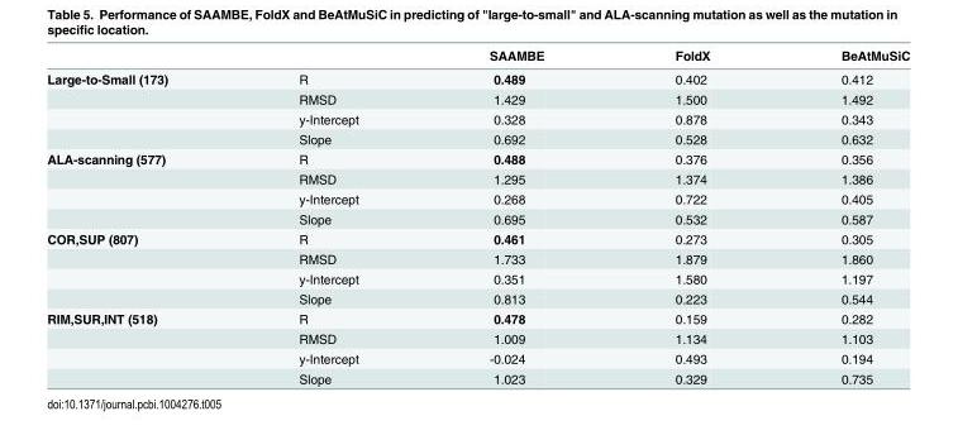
<table><thead><tr><td></td><td></td><td>SAAMBE</td><td>FoldX</td><td>BeAtMuSiC</td></tr></thead><tbody><tr><td rowspan="4">Large-to-Small (173)</td><td>R</td><td>0.489</td><td>0.402</td><td>0.412</td></tr><tr><td>RMSD</td><td>1.429</td><td>1.500</td><td>1.492</td></tr><tr><td>y-Intercept</td><td>0.328</td><td>0.878</td><td>0.343</td></tr><tr><td>Slope</td><td>0.692</td><td>0.528</td><td>0.632</td></tr><tr><td rowspan="4">ALA-scanning (577)</td><td>R</td><td>0.488</td><td>0.376</td><td>0.356</td></tr><tr><td>RMSD</td><td>1.295</td><td>1.374</td><td>1.386</td></tr><tr><td>y-Intercept</td><td>0.268</td><td>0.722</td><td>0.405</td></tr><tr><td>Slope</td><td>0.695</td><td>0.532</td><td>0.587</td></tr><tr><td rowspan="4">COR,SUP (807)</td><td>R</td><td>0.461</td><td>0.273</td><td>0.305</td></tr><tr><td>RMSD</td><td>1.733</td><td>1.879</td><td>1.860</td></tr><tr><td>y-Intercept</td><td>0.351</td><td>1.580</td><td>1.197</td></tr><tr><td>Slope</td><td>0.813</td><td>0.223</td><td>0.544</td></tr><tr><td rowspan="4">RIM,SUR,INT (518)</td><td>R</td><td>0.478</td><td>0.159</td><td>0.282</td></tr><tr><td>RMSD</td><td>1.009</td><td>1.134</td><td>1.103</td></tr><tr><td>y-Intercept</td><td>-0.024</td><td>0.493</td><td>0.194</td></tr><tr><td>Slope</td><td>1.023</td><td>0.329</td><td>0.735</td></tr></tbody></table>